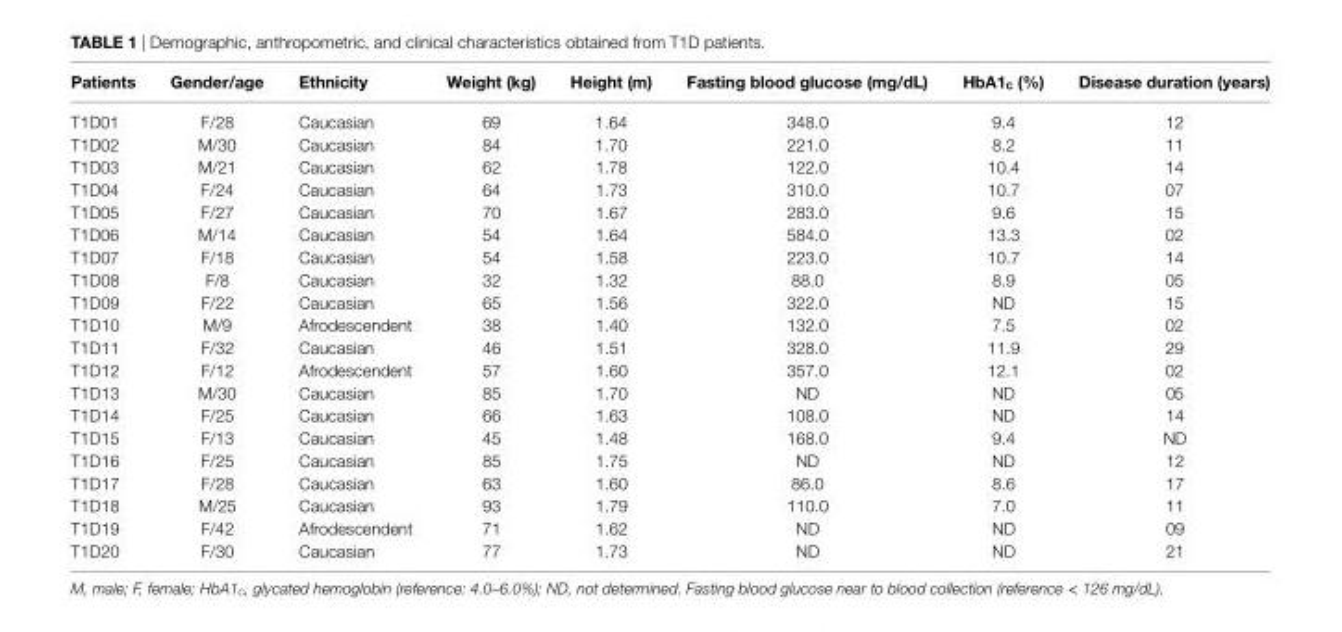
<table><thead><tr><td>Patients</td><td>gender/age</td><td>ethnicity</td><td>Weight (kg)</td><td>height (m)</td><td>Fasting blood glucose (mg/dl)</td><td>hba1<sub>c</sub> (%)</td><td>Disease duration (years)</td></tr></thead><tbody><tr><td>T1D01</td><td>F/28</td><td>Caucasian</td><td>69</td><td>1.64</td><td>348.0</td><td>9.4</td><td>12</td></tr><tr><td>T1D02</td><td>M/30</td><td>Caucasian</td><td>84</td><td>1.70</td><td>221.0</td><td>8.2</td><td>11</td></tr><tr><td>T1D03</td><td>M/21</td><td>Caucasian</td><td>62</td><td>1.78</td><td>122.0</td><td>10.4</td><td>14</td></tr><tr><td>T1D04</td><td>F/24</td><td>Caucasian</td><td>64</td><td>1.73</td><td>310.0</td><td>10.7</td><td>07</td></tr><tr><td>T1D05</td><td>F/27</td><td>Caucasian</td><td>70</td><td>1.67</td><td>283.0</td><td>9.6</td><td>15</td></tr><tr><td>T1D06</td><td>M/14</td><td>Caucasian</td><td>54</td><td>1.64</td><td>584.0</td><td>13.3</td><td>02</td></tr><tr><td>T1D07</td><td>F/18</td><td>Caucasian</td><td>54</td><td>1.58</td><td>223.0</td><td>10.7</td><td>14</td></tr><tr><td>T1D08</td><td>F/8</td><td>Caucasian</td><td>32</td><td>1.32</td><td>88.0</td><td>8.9</td><td>05</td></tr><tr><td>T1D09</td><td>F/22</td><td>Caucasian</td><td>65</td><td>1.56</td><td>322.0</td><td>ND</td><td>15</td></tr><tr><td>T1D10</td><td>M/9</td><td>Afrodescendent</td><td>38</td><td>1.40</td><td>132.0</td><td>7.5</td><td>02</td></tr><tr><td>T1D11</td><td>F/32</td><td>Caucasian</td><td>46</td><td>1.51</td><td>328.0</td><td>11.9</td><td>29</td></tr><tr><td>T1D12</td><td>F/12</td><td>Afrodescendent</td><td>57</td><td>1.60</td><td>357.0</td><td>12.1</td><td>02</td></tr><tr><td>T1D13</td><td>M/30</td><td>Caucasian</td><td>85</td><td>1.70</td><td>ND</td><td>ND</td><td>05</td></tr><tr><td>T1D14</td><td>F/25</td><td>Caucasian</td><td>66</td><td>1.63</td><td>108.0</td><td>ND</td><td>14</td></tr><tr><td>T1D15</td><td>F/13</td><td>Caucasian</td><td>45</td><td>1.48</td><td>168.0</td><td>9.4</td><td>ND</td></tr><tr><td>T1D16</td><td>F/25</td><td>Caucasian</td><td>85</td><td>1.75</td><td>ND</td><td>ND</td><td>12</td></tr><tr><td>T1D17</td><td>F/28</td><td>Caucasian</td><td>63</td><td>1.60</td><td>86.0</td><td>8.6</td><td>17</td></tr><tr><td>T1D18</td><td>M/25</td><td>Caucasian</td><td>93</td><td>1.79</td><td>110.0</td><td>7.0</td><td>11</td></tr><tr><td>T1D19</td><td>F/42</td><td>Afrodescendent</td><td>71</td><td>1.62</td><td>ND</td><td>ND</td><td>09</td></tr><tr><td>T1D20</td><td>F/30</td><td>Caucasian</td><td>77</td><td>1.73</td><td>ND</td><td>ND</td><td>21</td></tr></tbody></table>